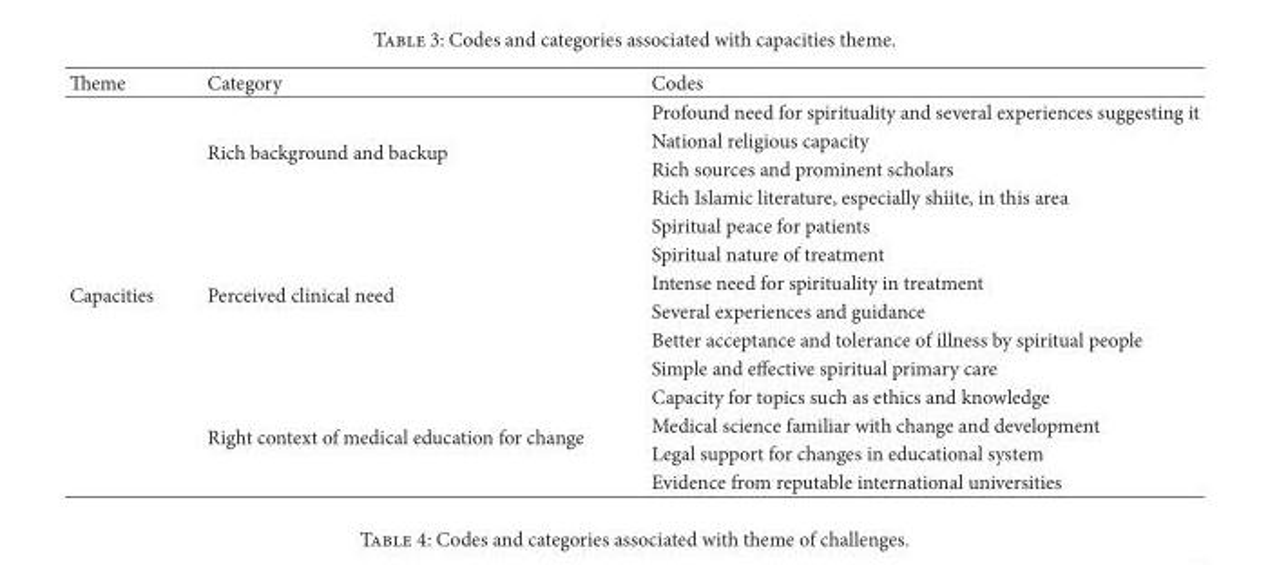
<table><thead><tr><td>Theme</td><td>Category</td><td>Codes</td></tr></thead><tbody><tr><td rowspan="14">Capacities</td><td rowspan="4">Rich background and backup</td><td>Profound need for spirituality and several experiences suggesting it</td></tr><tr><td>National religious capacity</td></tr><tr><td>Rich sources and prominent scholars</td></tr><tr><td>Rich Islamic literature, especially shiite, in this area</td></tr><tr><td rowspan="6">Perceived clinical need</td><td>Spiritual peace for patients</td></tr><tr><td>Spiritual nature of treatment</td></tr><tr><td>Intense need for spirituality in treatment</td></tr><tr><td>Several experiences and guidance</td></tr><tr><td>Better acceptance and tolerance of illness by spiritual people</td></tr><tr><td>Simple and effective spiritual primary care</td></tr><tr><td rowspan="4">Right context of medical education for change</td><td>Capacity for topics such as ethics and knowledge</td></tr><tr><td>Medical science familiar with change and development</td></tr><tr><td>Legal support for changes in educational system</td></tr><tr><td>Evidence from reputable international universities</td></tr></tbody></table>